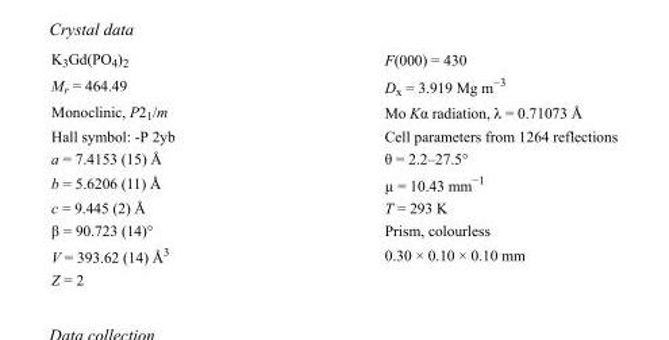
<table><tbody><tr><td>K<sub>3</sub>Gd(PO<sub>4</sub>)<sub>2</sub></td><td>F(000) = 430</td></tr><tr><td>M<sub>r</sub> = 464.49</td><td>D<sub>x</sub> = 3.919 Mg m<sup>−3</sup></td></tr><tr><td>Monoclinic, P2<sub>1</sub>/m</td><td>Mo Kα radiation, λ = 0.71073 Å</td></tr><tr><td>Hall symbol: -P 2yb</td><td>Cell parameters from 1264 reflections</td></tr><tr><td>a = 7.4153 (15) Å</td><td>θ = 2.2–27.5°</td></tr><tr><td>b = 5.6206 (11) Å</td><td>µ = 10.43 mm<sup>−1</sup></td></tr><tr><td>c = 9.445 (2) Å</td><td>T = 293 K</td></tr><tr><td>β = 90.723 (14)°</td><td>Prism, colourless</td></tr><tr><td>V = 393.62 (14) Å<sup>3</sup></td><td>0.30 × 0.10 × 0.10 mm</td></tr><tr><td>Z = 2</td><td></td></tr></tbody></table>